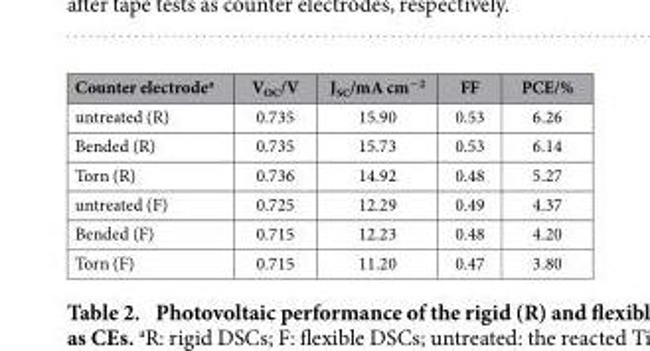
<table><thead><tr><td>Counter electrode<sup>a</sup></td><td>V<sub>OC</sub>/V</td><td>J<sub>SC</sub>/mA cm<sup>−2</sup></td><td>FF</td><td>PCE/%</td></tr></thead><tbody><tr><td>untreated (R)</td><td>0.735</td><td>15.90</td><td>0.53</td><td>6.26</td></tr><tr><td>Bended (R)</td><td>0.735</td><td>15.73</td><td>0.53</td><td>6.14</td></tr><tr><td>Torn (R)</td><td>0.736</td><td>14.92</td><td>0.48</td><td>5.27</td></tr><tr><td>untreated (F)</td><td>0.725</td><td>12.29</td><td>0.49</td><td>4.37</td></tr><tr><td>Bended (F)</td><td>0.715</td><td>12.23</td><td>0.48</td><td>4.20</td></tr><tr><td>Torn (F)</td><td>0.715</td><td>11.20</td><td>0.47</td><td>3.80</td></tr></tbody></table>